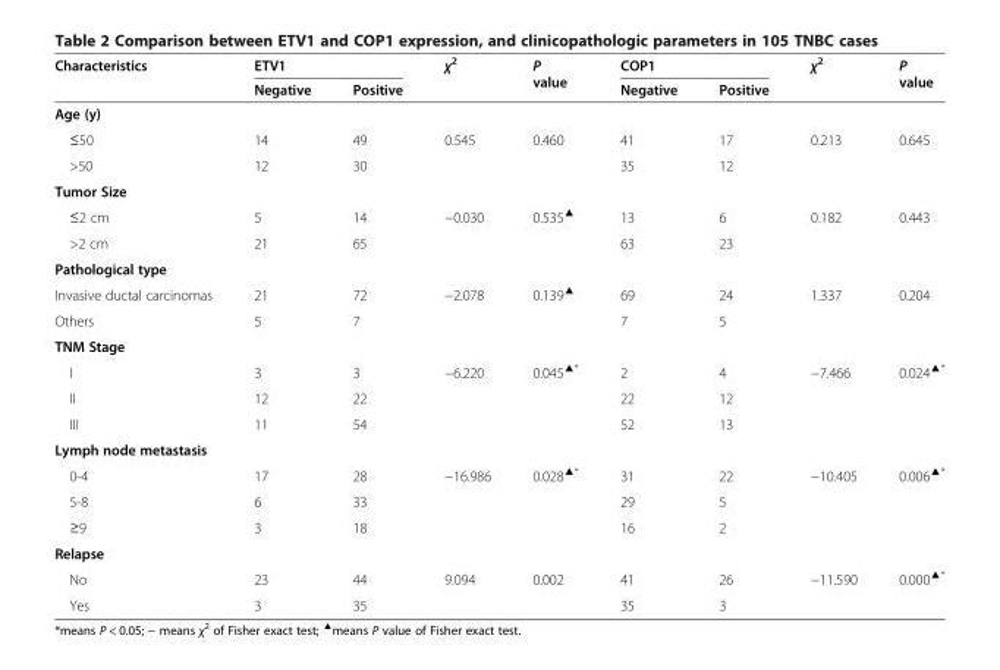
<table><thead><tr><td rowspan="2">Characteristics</td><td colspan="2">ETV1</td><td rowspan="2">χ<sup>2</sup></td><td rowspan="2">P value</td><td colspan="2">COP1</td><td rowspan="2">χ<sup>2</sup></td><td rowspan="2">P value</td></tr><tr><td>Negative</td><td>Positive</td><td>Negative</td><td>Positive</td></tr></thead><tbody><tr><td colspan="9">Age (y)</td></tr><tr><td>≤50</td><td>14</td><td>49</td><td rowspan="2">0.545</td><td rowspan="2">0.460</td><td>41</td><td>17</td><td rowspan="2">0.213</td><td rowspan="2">0.645</td></tr><tr><td>&gt;50</td><td>12</td><td>30</td><td>35</td><td>12</td></tr><tr><td colspan="9">Tumor Size</td></tr><tr><td>≤2 cm</td><td>5</td><td>14</td><td rowspan="2">−0.030</td><td rowspan="2">0.535<sup>▲</sup></td><td>13</td><td>6</td><td rowspan="2">0.182</td><td rowspan="2">0.443</td></tr><tr><td>&gt;2 cm</td><td>21</td><td>65</td><td>63</td><td>23</td></tr><tr><td colspan="9">Pathological type</td></tr><tr><td>Invasive ductal carcinomas</td><td>21</td><td>72</td><td rowspan="2">−2.078</td><td rowspan="2">0.139<sup>▲</sup></td><td>69</td><td>24</td><td rowspan="2">1.337</td><td rowspan="2">0.204</td></tr><tr><td>Others</td><td>5</td><td>7</td><td>7</td><td>5</td></tr><tr><td colspan="9">TNM Stage</td></tr><tr><td>I</td><td>3</td><td>3</td><td rowspan="3">−6.220</td><td rowspan="3">0.045<sup>▲*</sup></td><td>2</td><td>4</td><td rowspan="3">−7.466</td><td rowspan="3">0.024<sup>▲*</sup></td></tr><tr><td>II</td><td>12</td><td>22</td><td>22</td><td>12</td></tr><tr><td>III</td><td>11</td><td>54</td><td>52</td><td>13</td></tr><tr><td colspan="9">Lymph node metastasis</td></tr><tr><td>0-4</td><td>17</td><td>28</td><td rowspan="3">−16.986</td><td rowspan="3">0.028<sup>▲*</sup></td><td>31</td><td>22</td><td rowspan="3">−10.405</td><td rowspan="3">0.006<sup>▲*</sup></td></tr><tr><td>5-8</td><td>6</td><td>33</td><td>29</td><td>5</td></tr><tr><td>≥9</td><td>3</td><td>18</td><td>16</td><td>2</td></tr><tr><td colspan="9">Relapse</td></tr><tr><td>No</td><td>23</td><td>44</td><td rowspan="2">9.094</td><td rowspan="2">0.002</td><td>41</td><td>26</td><td rowspan="2">−11.590</td><td rowspan="2">0.000<sup>▲*</sup></td></tr><tr><td>Yes</td><td>3</td><td>35</td><td>35</td><td>3</td></tr></tbody></table>